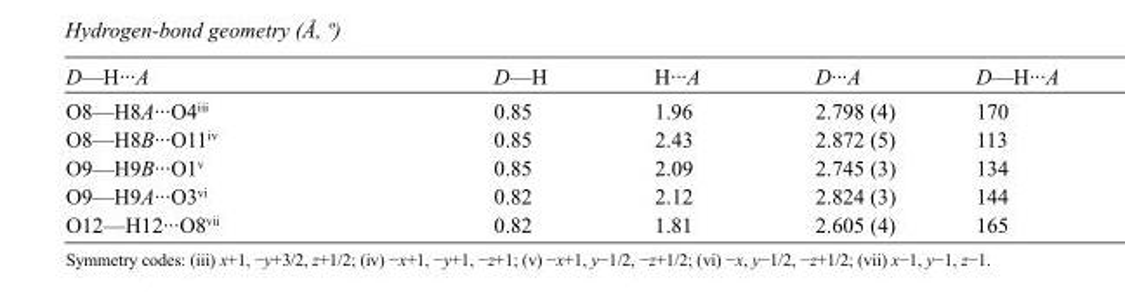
<table><tbody><tr><td>D—H···A</td><td>D—H</td><td>H···A</td><td>D···A</td><td>D—H···A</td></tr><tr><td>O8—H8A···O4<sup>iii</sup></td><td>0.85</td><td>1.96</td><td>2.798 (4)</td><td>170</td></tr><tr><td>O8—H8B···O11<sup>iv</sup></td><td>0.85</td><td>2.43</td><td>2.872 (5)</td><td>113</td></tr><tr><td>O9—H9B···O1<sup>v</sup></td><td>0.85</td><td>2.09</td><td>2.745 (3)</td><td>134</td></tr><tr><td>O9—H9A···O3<sup>vi</sup></td><td>0.82</td><td>2.12</td><td>2.824 (3)</td><td>144</td></tr><tr><td>O12—H12···O8<sup>vii</sup></td><td>0.82</td><td>1.81</td><td>2.605 (4)</td><td>165</td></tr></tbody></table>